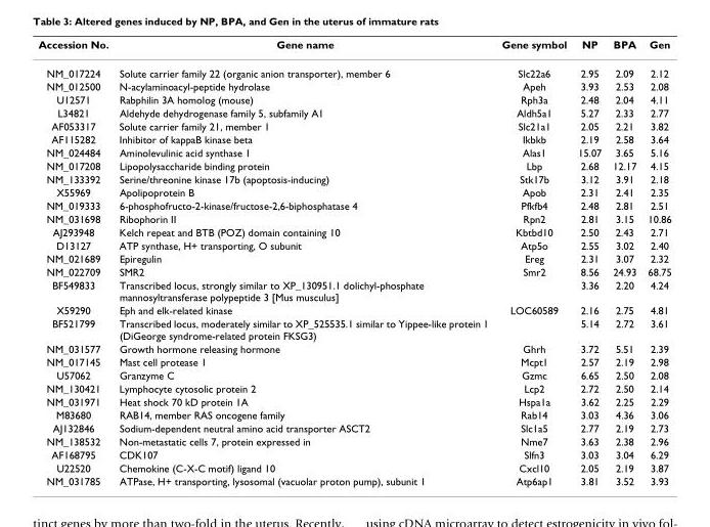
<table><thead><tr><td>Accession No.</td><td>Gene name</td><td>Gene symbol</td><td>NP</td><td>BPA</td><td>Gen</td></tr></thead><tbody><tr><td>NM_017224</td><td>Solute carrier family 22 (organic anion transporter), member 6</td><td>Slc22a6</td><td>2.95</td><td>2.09</td><td>2.12</td></tr><tr><td>NM_012500</td><td>N-acylaminoacyl-peptide hydrolase</td><td>Apeh</td><td>3.93</td><td>2.53</td><td>2.08</td></tr><tr><td>U12571</td><td>Rabphilin 3A homolog (mouse)</td><td>Rph3a</td><td>2.48</td><td>2.04</td><td>4.11</td></tr><tr><td>L34821</td><td>Aldehyde dehydrogenase family 5, subfamily A1</td><td>Aldh5a1</td><td>5.27</td><td>2.33</td><td>2.77</td></tr><tr><td>AF053317</td><td>Solute carrier family 21, member 1</td><td>Slc21a1</td><td>2.05</td><td>2.21</td><td>3.82</td></tr><tr><td>AF115282</td><td>Inhibitor of kappaB kinase beta</td><td>Ikbkb</td><td>2.19</td><td>2.58</td><td>3.64</td></tr><tr><td>NM_024484</td><td>Aminolevulinic acid synthase 1</td><td>Alas1</td><td>15.07</td><td>3.65</td><td>5.16</td></tr><tr><td>NM_017208</td><td>Lipopolysaccharide binding protein</td><td>Lbp</td><td>2.68</td><td>12.17</td><td>4.15</td></tr><tr><td>NM_133392</td><td>Serine/threonine kinase 17b (apoptosis-inducing)</td><td>Stk17b</td><td>3.12</td><td>3.91</td><td>2.18</td></tr><tr><td>X55969</td><td>Apolipoprotein B</td><td>Apob</td><td>2.31</td><td>2.41</td><td>2.35</td></tr><tr><td>NM_019333</td><td>6-phosphofructo-2-kinase/fructose-2,6-biphosphatase 4</td><td>Pfkfb4</td><td>2.48</td><td>2.81</td><td>2.51</td></tr><tr><td>NM_031698</td><td>Ribophorin II</td><td>Rpn2</td><td>2.81</td><td>3.15</td><td>10.86</td></tr><tr><td>AJ293948</td><td>Kelch repeat and BTB (POZ) domain containing 10</td><td>Kbtbd10</td><td>2.50</td><td>2.43</td><td>2.71</td></tr><tr><td>D13127</td><td>ATP synthase, H+ transporting, O subunit</td><td>Atp5o</td><td>2.55</td><td>3.02</td><td>2.40</td></tr><tr><td>NM_021689</td><td>Epiregulin</td><td>Ereg</td><td>2.31</td><td>3.07</td><td>2.32</td></tr><tr><td>NM_022709</td><td>SMR2</td><td>Smr2</td><td>8.56</td><td>24.93</td><td>68.75</td></tr><tr><td>BF549833</td><td>Transcribed locus, strongly similar to XP_130951.1 dolichyl-phosphate mannosyltransferase polypeptide 3 [Mus musculus]</td><td></td><td>3.36</td><td>2.20</td><td>4.24</td></tr><tr><td>X59290</td><td>Eph and elk-related kinase</td><td>LOC60589</td><td>2.16</td><td>2.75</td><td>4.81</td></tr><tr><td>BF521799</td><td>Transcribed locus, moderately similar to XP_525535.1 similar to Yippee-like protein 1 (DiGeorge syndrome-related protein FKSG3)</td><td></td><td>5.14</td><td>2.72</td><td>3.61</td></tr><tr><td>NM_031577</td><td>Growth hormone releasing hormone</td><td>Ghrh</td><td>3.72</td><td>5.51</td><td>2.39</td></tr><tr><td>NM_017145</td><td>Mast cell protease 1</td><td>Mcpt1</td><td>2.57</td><td>2.19</td><td>2.98</td></tr><tr><td>U57062</td><td>Granzyme C</td><td>Gzmc</td><td>6.65</td><td>2.50</td><td>2.08</td></tr><tr><td>NM_130421</td><td>Lymphocyte cytosolic protein 2</td><td>Lcp2</td><td>2.72</td><td>2.50</td><td>2.14</td></tr><tr><td>NM_031971</td><td>Heat shock 70 kD protein 1A</td><td>Hspa1a</td><td>3.62</td><td>2.25</td><td>2.29</td></tr><tr><td>M83680</td><td>RAB14, member RAS oncogene family</td><td>Rab14</td><td>3.03</td><td>4.36</td><td>3.06</td></tr><tr><td>AJ132846</td><td>Sodium-dependent neutral amino acid transporter ASCT2</td><td>Slc1a5</td><td>2.77</td><td>2.19</td><td>2.73</td></tr><tr><td>NM_138532</td><td>Non-metastatic cells 7, protein expressed in</td><td>Nme7</td><td>3.63</td><td>2.38</td><td>2.96</td></tr><tr><td>AF168795</td><td>CDK107</td><td>Slfn3</td><td>3.03</td><td>3.04</td><td>6.29</td></tr><tr><td>U22520</td><td>Chemokine (C-X-C motif) ligand 10</td><td>Cxcl10</td><td>2.05</td><td>2.19</td><td>3.87</td></tr><tr><td>NM_031785</td><td>ATPase, H+ transporting, lysosomal (vacuolar proton pump), subunit 1</td><td>Atp6ap1</td><td>3.81</td><td>3.52</td><td>3.93</td></tr></tbody></table>